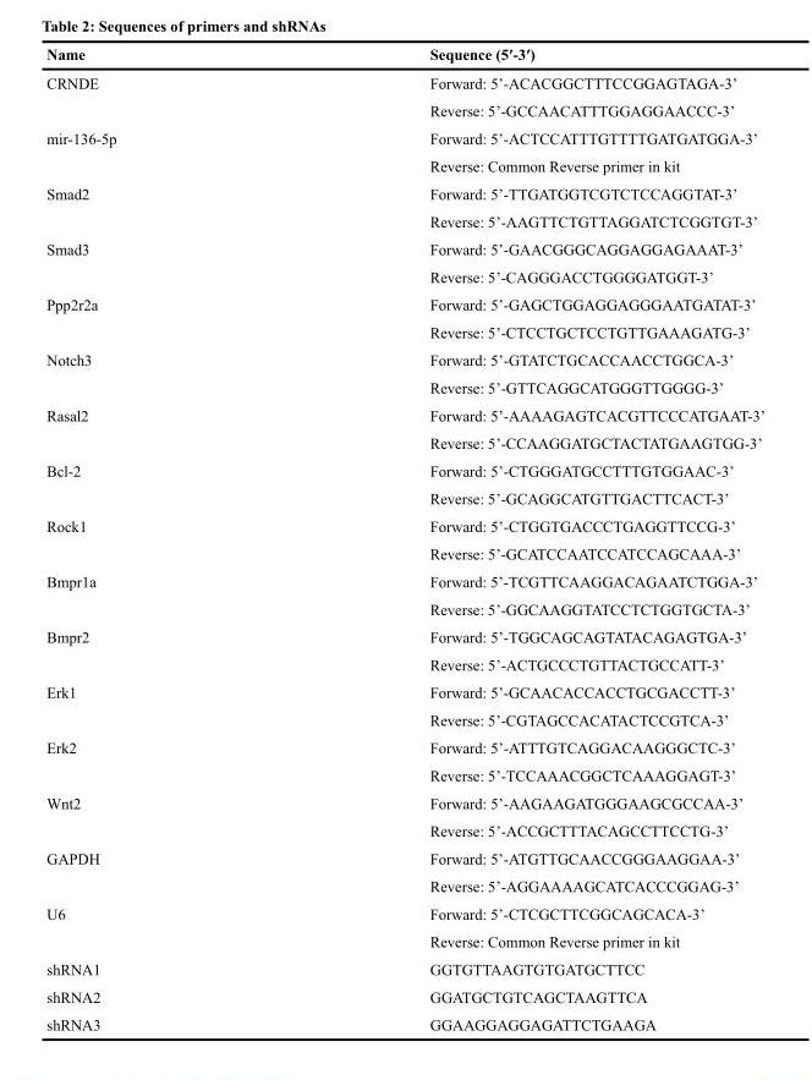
<table><thead><tr><td>Name</td><td>Sequence (5′-3′)</td></tr></thead><tbody><tr><td rowspan="2">CRNDE</td><td>Forward: 5’-ACACGGCTTTCCGGAGTAGA-3’</td></tr><tr><td>Reverse: 5’-GCCAACATTTGGAGGAACCC-3’</td></tr><tr><td rowspan="2">mir-136-5p</td><td>Forward: 5’-ACTCCATTTGTTTTGATGATGGA-3’</td></tr><tr><td>Reverse: Common Reverse primer in kit</td></tr><tr><td rowspan="2">Smad2</td><td>Forward: 5’-TTGATGGTCGTCTCCAGGTAT-3’</td></tr><tr><td>Reverse: 5’-AAGTTCTGTTAGGATCTCGGTGT-3’</td></tr><tr><td rowspan="2">Smad3</td><td>Forward: 5’-GAACGGGCAGGAGGAGAAAT-3’</td></tr><tr><td>Reverse: 5’-CAGGGACCTGGGGATGGT-3’</td></tr><tr><td rowspan="2">Ppp2r2a</td><td>Forward: 5’-GAGCTGGAGGAGGGAATGATAT-3’</td></tr><tr><td>Reverse: 5’-CTCCTGCTCCTGTTGAAAGATG-3’</td></tr><tr><td rowspan="2">Notch3</td><td>Forward: 5’-GTATCTGCACCAACCTGGCA-3’</td></tr><tr><td>Reverse: 5’-GTTCAGGCATGGGTTGGGG-3’</td></tr><tr><td rowspan="2">Rasal2</td><td>Forward: 5’-AAAAGAGTCACGTTCCCATGAAT-3’</td></tr><tr><td>Reverse: 5’-CCAAGGATGCTACTATGAAGTGG-3’</td></tr><tr><td rowspan="2">Bcl-2</td><td>Forward: 5’-CTGGGATGCCTTTGTGGAAC-3’</td></tr><tr><td>Reverse: 5’-GCAGGCATGTTGACTTCACT-3’</td></tr><tr><td rowspan="2">Rock1</td><td>Forward: 5’-CTGGTGACCCTGAGGTTCCG-3’</td></tr><tr><td>Reverse: 5’-GCATCCAATCCATCCAGCAAA-3’</td></tr><tr><td rowspan="2">Bmpr1a</td><td>Forward: 5’-TCGTTCAAGGACAGAATCTGGA-3’</td></tr><tr><td>Reverse: 5’-GGCAAGGTATCCTCTGGTGCTA-3’</td></tr><tr><td rowspan="2">Bmpr2</td><td>Forward: 5’-TGGCAGCAGTATACAGAGTGA-3’</td></tr><tr><td>Reverse: 5’-ACTGCCCTGTTACTGCCATT-3’</td></tr><tr><td rowspan="2">Erk1</td><td>Forward: 5’-GCAACACCACCTGCGACCTT-3’</td></tr><tr><td>Reverse: 5’-CGTAGCCACATACTCCGTCA-3’</td></tr><tr><td rowspan="2">Erk2</td><td>Forward: 5’-ATTTGTCAGGACAAGGGCTC-3’</td></tr><tr><td>Reverse: 5’-TCCAAACGGCTCAAAGGAGT-3’</td></tr><tr><td rowspan="2">Wnt2</td><td>Forward: 5’-AAGAAGATGGGAAGCGCCAA-3’</td></tr><tr><td>Reverse: 5’-ACCGCTTTACAGCCTTCCTG-3’</td></tr><tr><td rowspan="2">GAPDH</td><td>Forward: 5’-ATGTTGCAACCGGGAAGGAA-3’</td></tr><tr><td>Reverse: 5’-AGGAAAAGCATCACCCGGAG-3’</td></tr><tr><td rowspan="2">U6</td><td>Forward: 5’-CTCGCTTCGGCAGCACA-3’</td></tr><tr><td>Reverse: Common Reverse primer in kit</td></tr><tr><td>shRNA1</td><td>GGTGTTAAGTGTGATGCTTCC</td></tr><tr><td>shRNA2</td><td>GGATGCTGTCAGCTAAGTTCA</td></tr><tr><td>shRNA3</td><td>GGAAGGAGGAGATTCTGAAGA</td></tr></tbody></table>